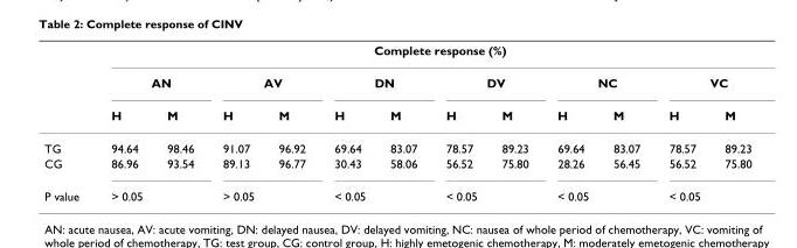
<table><thead><tr><td rowspan="3"></td><td colspan="12">Complete response (%)</td></tr><tr><td colspan="2">AN</td><td colspan="2">AV</td><td colspan="2">DN</td><td colspan="2">DV</td><td colspan="2">NC</td><td colspan="2">VC</td></tr><tr><td>H</td><td>M</td><td>H</td><td>M</td><td>H</td><td>M</td><td>H</td><td>M</td><td>H</td><td>M</td><td>H</td><td>M</td></tr></thead><tbody><tr><td>TG</td><td>94.64</td><td>98.46</td><td>91.07</td><td>96.92</td><td>69.64</td><td>83.07</td><td>78.57</td><td>89.23</td><td>69.64</td><td>83.07</td><td>78.57</td><td>89.23</td></tr><tr><td>CG</td><td>86.96</td><td>93.54</td><td>89.13</td><td>96.77</td><td>30.43</td><td>58.06</td><td>56.52</td><td>75.80</td><td>28.26</td><td>56.45</td><td>56.52</td><td>75.80</td></tr><tr><td>P value</td><td colspan="2">&gt; 0.05</td><td colspan="2">&gt; 0.05</td><td colspan="2">&lt; 0.05</td><td colspan="2">&lt; 0.05</td><td colspan="2">&lt; 0.05</td><td colspan="2">&lt; 0.05</td></tr></tbody></table>